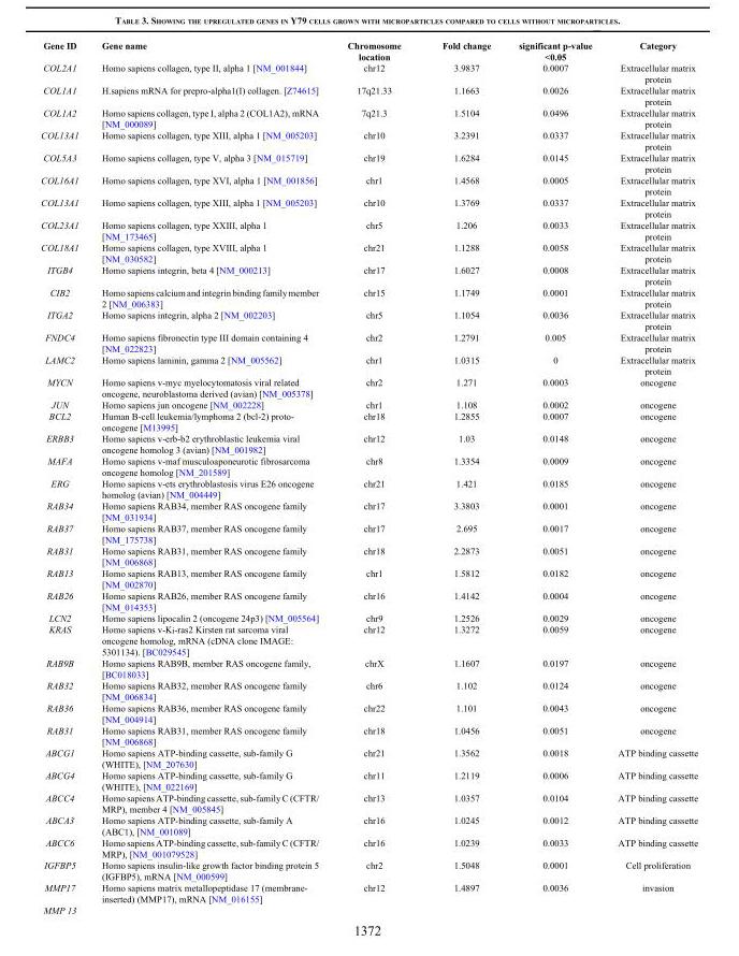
<table><thead><tr><td>Gene ID</td><td>Gene name</td><td>Chromosome location</td><td>Fold change</td><td>significant p-value &lt;0.05</td><td>Category</td></tr></thead><tbody><tr><td>COL2A1</td><td>Homo sapiens collagen, type II, alpha 1 [NM_001844]</td><td>chr12</td><td>3.9837</td><td>0.0007</td><td>Extracellular matrix protein</td></tr><tr><td>COL1A1</td><td>H.sapiens mRNA for prepro-alpha1(I) collagen. [Z74615]</td><td>17q21.33</td><td>1.1663</td><td>0.0026</td><td>Extracellular matrix protein</td></tr><tr><td>COL1A2</td><td>Homo sapiens collagen, type I, alpha 2 (COL1A2), mRNA [NM_000089]</td><td>7q21.3</td><td>1.5104</td><td>0.0496</td><td>Extracellular matrix protein</td></tr><tr><td>COL13A1</td><td>Homo sapiens collagen, type XIII, alpha 1 [NM_005203]</td><td>chr10</td><td>3.2391</td><td>0.0337</td><td>Extracellular matrix protein</td></tr><tr><td>COL5A3</td><td>Homo sapiens collagen, type V, alpha 3 [NM_015719]</td><td>chr19</td><td>1.6284</td><td>0.0145</td><td>Extracellular matrix protein</td></tr><tr><td>COL16A1</td><td>Homo sapiens collagen, type XVI, alpha 1 [NM_001856]</td><td>chr1</td><td>1.4568</td><td>0.0005</td><td>Extracellular matrix protein</td></tr><tr><td>COL13A1</td><td>Homo sapiens collagen, type XIII, alpha 1 [NM_005203]</td><td>chr10</td><td>1.3769</td><td>0.0337</td><td>Extracellular matrix protein</td></tr><tr><td>COL23A1</td><td>Homo sapiens collagen, type XXIII, alpha 1 [NM_173465]</td><td>chr5</td><td>1.206</td><td>0.0033</td><td>Extracellular matrix protein</td></tr><tr><td>COL18A1</td><td>Homo sapiens collagen, type XVIII, alpha 1 [NM_030582]</td><td>chr21</td><td>1.1288</td><td>0.0058</td><td>Extracellular matrix protein</td></tr><tr><td>ITGB4</td><td>Homo sapiens integrin, beta 4 [NM_000213]</td><td>chr17</td><td>1.6027</td><td>0.0008</td><td>Extracellular matrix protein</td></tr><tr><td>CIB2</td><td>Homo sapiens calcium and integrin binding family member 2 [NM_006383]</td><td>chr15</td><td>1.1749</td><td>0.0001</td><td>Extracellular matrix protein</td></tr><tr><td>ITGA2</td><td>Homo sapiens integrin, alpha 2 [NM_002203]</td><td>chr5</td><td>1.1054</td><td>0.0036</td><td>Extracellular matrix protein</td></tr><tr><td>FNDC4</td><td>Homo sapiens fibronectin type III domain containing 4 [NM_022823]</td><td>chr2</td><td>1.2791</td><td>0.005</td><td>Extracellular matrix protein</td></tr><tr><td>LAMC2</td><td>Homo sapiens laminin, gamma 2 [NM_005562]</td><td>chr1</td><td>1.0315</td><td>0</td><td>Extracellular matrix protein</td></tr><tr><td>MYCN</td><td>Homo sapiens v-myc myelocytomatosis viral related oncogene, neuroblastoma derived (avian) [NM_005378]</td><td>chr2</td><td>1.271</td><td>0.0003</td><td>oncogene</td></tr><tr><td>JUN</td><td>Homo sapiens jun oncogene [NM_002228]</td><td>chr1</td><td>1.108</td><td>0.0002</td><td>oncogene</td></tr><tr><td>BCL2</td><td>Human B-cell leukemia/lymphoma 2 (bcl-2) proto- oncogene [M13995]</td><td>chr18</td><td>1.2855</td><td>0.0007</td><td>oncogene</td></tr><tr><td>ERBB3</td><td>Homo sapiens v-erb-b2 erythroblastic leukemia viral oncogene homolog 3 (avian) [NM_001982]</td><td>chr12</td><td>1.03</td><td>0.0148</td><td>oncogene</td></tr><tr><td>MAFA</td><td>Homo sapiens v-maf musculoaponeurotic fibrosarcoma oncogene homolog [NM_201589]</td><td>chr8</td><td>1.3354</td><td>0.0009</td><td>oncogene</td></tr><tr><td>ERG</td><td>Homo sapiens v-ets erythroblastosis virus E26 oncogene homolog (avian) [NM_004449]</td><td>chr21</td><td>1.421</td><td>0.0185</td><td>oncogene</td></tr><tr><td>RAB34</td><td>Homo sapiens RAB34, member RAS oncogene family [NM_031934]</td><td>chr17</td><td>3.3803</td><td>0.0001</td><td>oncogene</td></tr><tr><td>RAB37</td><td>Homo sapiens RAB37, member RAS oncogene family [NM_175738]</td><td>chr17</td><td>2.695</td><td>0.0017</td><td>oncogene</td></tr><tr><td>RAB31</td><td>Homo sapiens RAB31, member RAS oncogene family [NM_006868]</td><td>chr18</td><td>2.2873</td><td>0.0051</td><td>oncogene</td></tr><tr><td>RAB13</td><td>Homo sapiens RAB13, member RAS oncogene family [NM_002870]</td><td>chr1</td><td>1.5812</td><td>0.0182</td><td>oncogene</td></tr><tr><td>RAB26</td><td>Homo sapiens RAB26, member RAS oncogene family [NM_014353]</td><td>chr16</td><td>1.4142</td><td>0.0004</td><td>oncogene</td></tr><tr><td>LCN2</td><td>Homo sapiens lipocalin 2 (oncogene 24p3) [NM_005564]</td><td>chr9</td><td>1.2526</td><td>0.0029</td><td>oncogene</td></tr><tr><td>KRAS</td><td>Homo sapiens v-K<sub>i</sub>-ras2 Kirsten rat sarcoma viral oncogene homolog, mRNA (cDNA clone IMAGE: 5301134). [BC029545]</td><td>chr12</td><td>1.3272</td><td>0.0059</td><td>oncogene</td></tr><tr><td>RAB9B</td><td>Homo sapiens RAB9B, member RAS oncogene family, [BC018033]</td><td>chrX</td><td>1.1607</td><td>0.0197</td><td>oncogene</td></tr><tr><td>RAB32</td><td>Homo sapiens RAB32, member RAS oncogene family [NM_006834]</td><td>chr6</td><td>1.102</td><td>0.0124</td><td>oncogene</td></tr><tr><td>RAB36</td><td>Homo sapiens RAB36, member RAS oncogene family [NM_004914]</td><td>chr22</td><td>1.101</td><td>0.0043</td><td>oncogene</td></tr><tr><td>RAB31</td><td>Homo sapiens RAB31, member RAS oncogene family [NM_006868]</td><td>chr18</td><td>1.0456</td><td>0.0051</td><td>oncogene</td></tr><tr><td>ABCG1</td><td>Homo sapiens ATP-binding cassette, sub-family G (WHITE), [NM_207630]</td><td>chr21</td><td>1.3562</td><td>0.0018</td><td>ATP binding cassette</td></tr><tr><td>ABCG4</td><td>Homo sapiens ATP-binding cassette, sub-family G (WHITE), [NM_022169]</td><td>chr11</td><td>1.2119</td><td>0.0006</td><td>ATP binding cassette</td></tr><tr><td>ABCC4</td><td>Homo sapiens ATP-binding cassette, sub-family C (CFTR/ MRP), member 4 [NM_005845]</td><td>chr13</td><td>1.0357</td><td>0.0104</td><td>ATP binding cassette</td></tr><tr><td>ABCA3</td><td>Homo sapiens ATP-binding cassette, sub-family A (ABC1), [NM_001089]</td><td>chr16</td><td>1.0245</td><td>0.0012</td><td>ATP binding cassette</td></tr><tr><td>ABCC6</td><td>Homo sapiens ATP-binding cassette, sub-family C (CFTR/ MRP), [NM_001079528]</td><td>chr16</td><td>1.0239</td><td>0.0033</td><td>ATP binding cassette</td></tr><tr><td>IGFBP5</td><td>Homo sapiens insulin-like growth factor binding protein 5 (IGFBP5), mRNA [NM_000599]</td><td>chr2</td><td>1.5048</td><td>0.0001</td><td>Cell proliferation</td></tr><tr><td>MMP17</td><td>Homo sapiens matrix metallopeptidase 17 (membrane- inserted) (MMP17), mRNA [NM_016155]</td><td>chr12</td><td>1.4897</td><td>0.0036</td><td>invasion</td></tr><tr><td>MMP 13</td><td></td><td></td><td></td><td></td><td></td></tr></tbody></table>